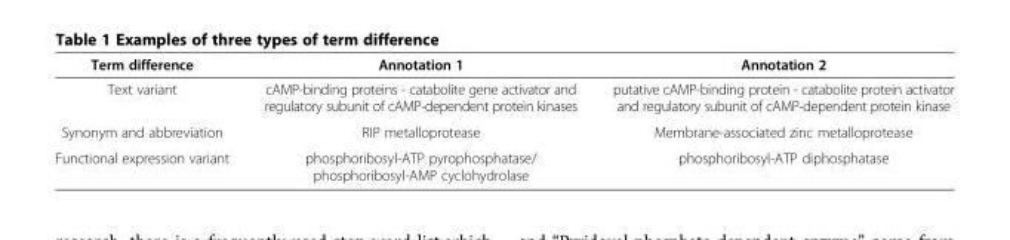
<table><thead><tr><td>Term difference</td><td>Annotation 1</td><td>Annotation 2</td></tr></thead><tbody><tr><td>Text variant</td><td>cAMP-binding proteins - catabolite gene activator and regulatory subunit of cAMP-dependent protein kinases</td><td>putative cAMP-binding protein - catabolite protein activator and regulatory subunit of cAMP-dependent protein kinase</td></tr><tr><td>Synonym and abbreviation</td><td>RIP metalloprotease</td><td>Membrane-associated zinc metalloprotease</td></tr><tr><td>Functional expression variant</td><td>phosphoribosyl-ATP pyrophosphatase/ phosphoribosyl-AMP cyclohydrolase</td><td>phosphoribosyl-ATP diphosphatase</td></tr></tbody></table>